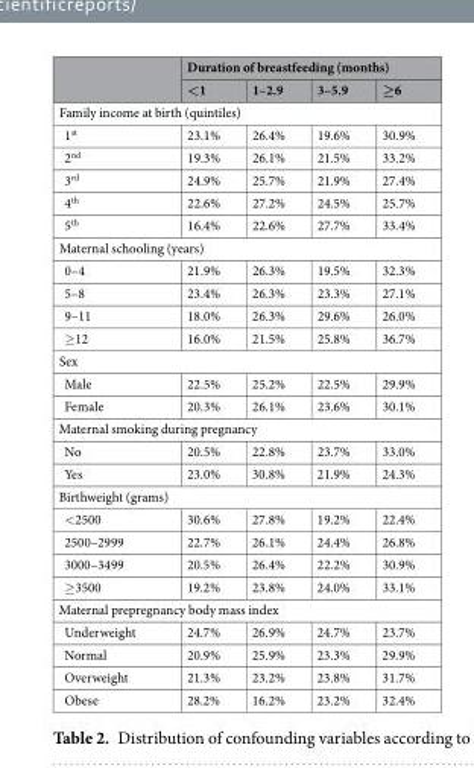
<table><thead><tr><td rowspan="2"></td><td colspan="4">Duration of breastfeeding (months)</td></tr><tr><td>&lt;1</td><td>1–2.9</td><td>3–5.9</td><td>≥6</td></tr></thead><tbody><tr><td colspan="5">Family income at birth (quintiles)</td></tr><tr><td>1<sup>st</sup></td><td>23.1%</td><td>26.4%</td><td>19.6%</td><td>30.9%</td></tr><tr><td>2<sup>nd</sup></td><td>19.3%</td><td>26.1%</td><td>21.5%</td><td>33.2%</td></tr><tr><td>3<sup>rd</sup></td><td>24.9%</td><td>25.7%</td><td>21.9%</td><td>27.4%</td></tr><tr><td>4<sup>th</sup></td><td>22.6%</td><td>27.2%</td><td>24.5%</td><td>25.7%</td></tr><tr><td>5<sup>th</sup></td><td>16.4%</td><td>22.6%</td><td>27.7%</td><td>33.4%</td></tr><tr><td colspan="5">Maternal schooling (years)</td></tr><tr><td>0–4</td><td>21.9%</td><td>26.3%</td><td>19.5%</td><td>32.3%</td></tr><tr><td>5–8</td><td>23.4%</td><td>26.3%</td><td>23.3%</td><td>27.1%</td></tr><tr><td>9–11</td><td>18.0%</td><td>26.3%</td><td>29.6%</td><td>26.0%</td></tr><tr><td>≥12</td><td>16.0%</td><td>21.5%</td><td>25.8%</td><td>36.7%</td></tr><tr><td colspan="5">Sex</td></tr><tr><td>Male</td><td>22.5%</td><td>25.2%</td><td>22.5%</td><td>29.9%</td></tr><tr><td>Female</td><td>20.3%</td><td>26.1%</td><td>23.6%</td><td>30.1%</td></tr><tr><td colspan="5">Maternal smoking during pregnancy</td></tr><tr><td>No</td><td>20.5%</td><td>22.8%</td><td>23.7%</td><td>33.0%</td></tr><tr><td>Yes</td><td>23.0%</td><td>30.8%</td><td>21.9%</td><td>24.3%</td></tr><tr><td colspan="5">Birthweight (grams)</td></tr><tr><td>&lt;2500</td><td>30.6%</td><td>27.8%</td><td>19.2%</td><td>22.4%</td></tr><tr><td>2500–2999</td><td>22.7%</td><td>26.1%</td><td>24.4%</td><td>26.8%</td></tr><tr><td>3000–3499</td><td>20.5%</td><td>26.4%</td><td>22.2%</td><td>30.9%</td></tr><tr><td>≥3500</td><td>19.2%</td><td>23.8%</td><td>24.0%</td><td>33.1%</td></tr><tr><td colspan="5">Maternal prepregnancy body mass index</td></tr><tr><td>Underweight</td><td>24.7%</td><td>26.9%</td><td>24.7%</td><td>23.7%</td></tr><tr><td>Normal</td><td>20.9%</td><td>25.9%</td><td>23.3%</td><td>29.9%</td></tr><tr><td>Overweight</td><td>21.3%</td><td>23.2%</td><td>23.8%</td><td>31.7%</td></tr><tr><td>Obese</td><td>28.2%</td><td>16.2%</td><td>23.2%</td><td>32.4%</td></tr></tbody></table>